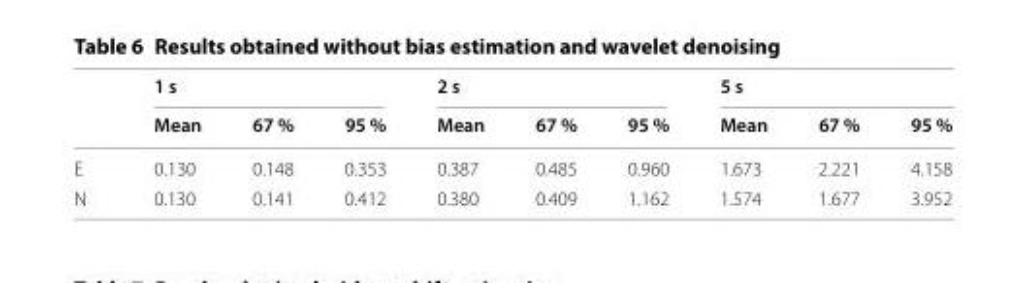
<table><thead><tr><td rowspan="2"></td><td colspan="3">1 s</td><td colspan="3">2 s</td><td colspan="3">5 s</td></tr><tr><td>Mean</td><td>67 %</td><td>95 %</td><td>Mean</td><td>67 %</td><td>95 %</td><td>Mean</td><td>67 %</td><td>95 %</td></tr></thead><tbody><tr><td>E</td><td>0.130</td><td>0.148</td><td>0.353</td><td>0.387</td><td>0.485</td><td>0.960</td><td>1.673</td><td>2.221</td><td>4.158</td></tr><tr><td>N</td><td>0.130</td><td>0.141</td><td>0.412</td><td>0.380</td><td>0.409</td><td>1.162</td><td>1.574</td><td>1.677</td><td>3.952</td></tr></tbody></table>